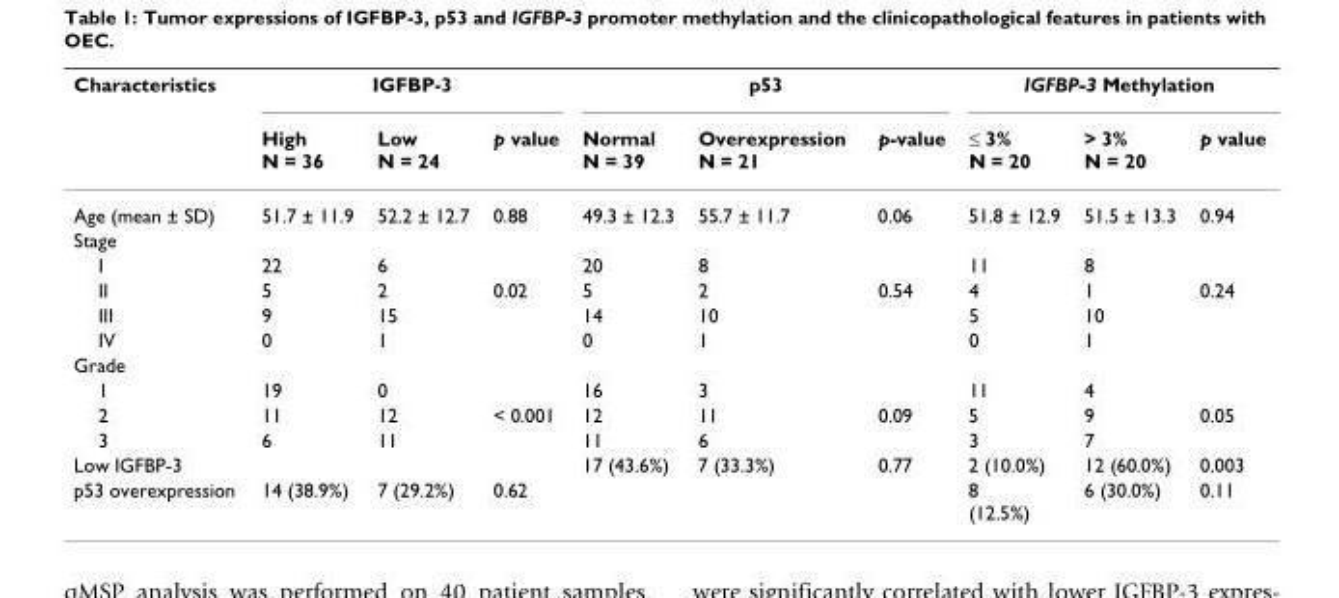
<table><thead><tr><td rowspan="2">Characteristics</td><td colspan="3">IGFBP-3</td><td colspan="3">p53</td><td colspan="3">IGFBP-3 Methylation</td></tr><tr><td>High N = 36</td><td>Low N = 24</td><td>p value</td><td>Normal N = 39</td><td>Overexpression N = 21</td><td>p-value</td><td>≤ 3% N = 20</td><td>&gt; 3% N = 20</td><td>p value</td></tr></thead><tbody><tr><td>Age (mean ± SD)</td><td>51.7 ± 11.9</td><td>52.2 ± 12.7</td><td>0.88</td><td>49.3 ± 12.3</td><td>55.7 ± 11.7</td><td>0.06</td><td>51.8 ± 12.9</td><td>51.5 ± 13.3</td><td>0.94</td></tr><tr><td colspan="10">Stage</td></tr><tr><td>I</td><td>22</td><td>6</td><td></td><td>20</td><td>8</td><td></td><td>11</td><td>8</td><td></td></tr><tr><td>II</td><td>5</td><td>2</td><td>0.02</td><td>5</td><td>2</td><td>0.54</td><td>4</td><td>1</td><td>0.24</td></tr><tr><td>III</td><td>9</td><td>15</td><td></td><td>14</td><td>10</td><td></td><td>5</td><td>10</td><td></td></tr><tr><td>IV</td><td>0</td><td>1</td><td></td><td>0</td><td>1</td><td></td><td>0</td><td>1</td><td></td></tr><tr><td colspan="10">Grade</td></tr><tr><td>1</td><td>19</td><td>0</td><td></td><td>16</td><td>3</td><td></td><td>11</td><td>4</td><td></td></tr><tr><td>2</td><td>11</td><td>12</td><td>&lt; 0.001</td><td>12</td><td>11</td><td>0.09</td><td>5</td><td>9</td><td>0.05</td></tr><tr><td>3</td><td>6</td><td>11</td><td></td><td>11</td><td>6</td><td></td><td>3</td><td>7</td><td></td></tr><tr><td>Low IGFBP-3</td><td></td><td></td><td></td><td>17 (43.6%)</td><td>7 (33.3%)</td><td>0.77</td><td>2 (10.0%)</td><td>12 (60.0%)</td><td>0.003</td></tr><tr><td>p53 overexpression</td><td>14 (38.9%)</td><td>7 (29.2%)</td><td>0.62</td><td></td><td></td><td></td><td>8 (12.5%)</td><td>6 (30.0%)</td><td>0.11</td></tr></tbody></table>